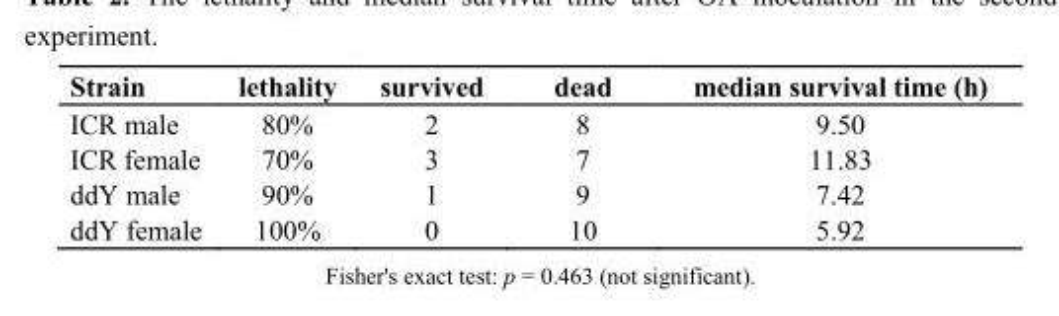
<table><thead><tr><td>Strain</td><td>lethality</td><td>survived</td><td>dead</td><td>median survival time (h)</td></tr></thead><tbody><tr><td>ICR male</td><td>80%</td><td>2</td><td>8</td><td>9.50</td></tr><tr><td>ICR female</td><td>70%</td><td>3</td><td>7</td><td>11.83</td></tr><tr><td>ddY male</td><td>90%</td><td>1</td><td>9</td><td>7.42</td></tr><tr><td>ddY female</td><td>100%</td><td>0</td><td>10</td><td>5.92</td></tr></tbody></table>